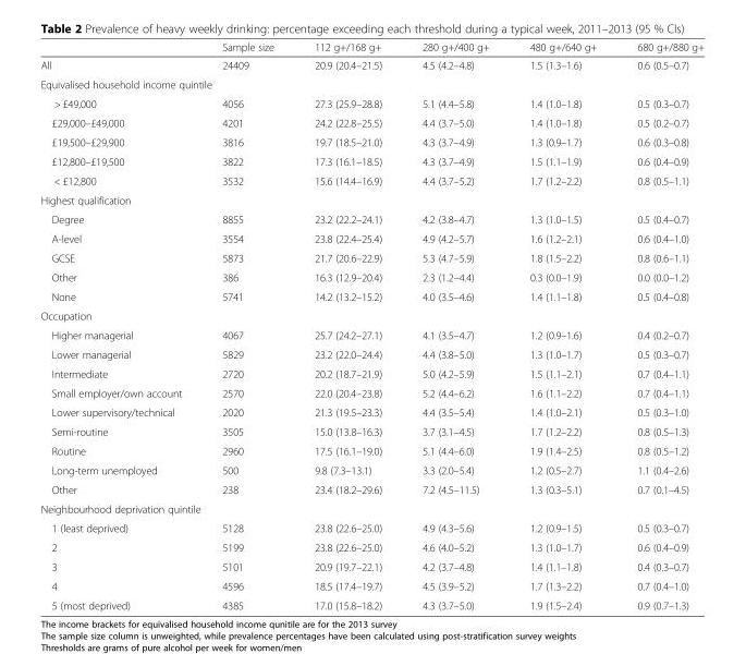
<table><thead><tr><td></td><td>Sample size</td><td>112 g+/168 g+</td><td>280 g+/400 g+</td><td>480 g+/640 g+</td><td>680 g+/880 g+</td></tr></thead><tbody><tr><td>All</td><td>24409</td><td>20.9 (20.4–21.5)</td><td>4.5 (4.2–4.8)</td><td>1.5 (1.3–1.6)</td><td>0.6 (0.5–0.7)</td></tr><tr><td colspan="6">Equivalised household income quintile</td></tr><tr><td>&gt; £49,000</td><td>4056</td><td>27.3 (25.9–28.8)</td><td>5.1 (4.4–5.8)</td><td>1.4 (1.0–1.8)</td><td>0.5 (0.3–0.7)</td></tr><tr><td>£29,000–£49,000</td><td>4201</td><td>24.2 (22.8–25.5)</td><td>4.4 (3.7–5.0)</td><td>1.4 (1.0–1.8)</td><td>0.5 (0.2–0.7)</td></tr><tr><td>£19,500–£29,900</td><td>3816</td><td>19.7 (18.5–21.0)</td><td>4.3 (3.7–4.9)</td><td>1.3 (0.9–1.7)</td><td>0.6 (0.3–0.8)</td></tr><tr><td>£12,800–£19,500</td><td>3822</td><td>17.3 (16.1–18.5)</td><td>4.3 (3.7–4.9)</td><td>1.5 (1.1–1.9)</td><td>0.6 (0.4–0.9)</td></tr><tr><td>&lt; £12,800</td><td>3532</td><td>15.6 (14.4–16.9)</td><td>4.4 (3.7–5.2)</td><td>1.7 (1.2–2.2)</td><td>0.8 (0.5–1.1)</td></tr><tr><td colspan="6">Highest qualification</td></tr><tr><td>Degree</td><td>8855</td><td>23.2 (22.2–24.1)</td><td>4.2 (3.8–4.7)</td><td>1.3 (1.0–1.5)</td><td>0.5 (0.4–0.7)</td></tr><tr><td>A-level</td><td>3554</td><td>23.8 (22.4–25.4)</td><td>4.9 (4.2–5.7)</td><td>1.6 (1.2–2.1)</td><td>0.6 (0.4–1.0)</td></tr><tr><td>GCSE</td><td>5873</td><td>21.7 (20.6–22.9)</td><td>5.3 (4.7–5.9)</td><td>1.8 (1.5–2.2)</td><td>0.8 (0.6–1.1)</td></tr><tr><td>Other</td><td>386</td><td>16.3 (12.9–20.4)</td><td>2.3 (1.2–4.4)</td><td>0.3 (0.0–1.9)</td><td>0.0 (0.0–1.2)</td></tr><tr><td>None</td><td>5741</td><td>14.2 (13.2–15.2)</td><td>4.0 (3.5–4.6)</td><td>1.4 (1.1–1.8)</td><td>0.5 (0.4–0.8)</td></tr><tr><td colspan="6">Occupation</td></tr><tr><td>Higher managerial</td><td>4067</td><td>25.7 (24.2–27.1)</td><td>4.1 (3.5–4.7)</td><td>1.2 (0.9–1.6)</td><td>0.4 (0.2–0.7)</td></tr><tr><td>Lower managerial</td><td>5829</td><td>23.2 (22.0–24.4)</td><td>4.4 (3.8–5.0)</td><td>1.3 (1.0–1.7)</td><td>0.5 (0.3–0.7)</td></tr><tr><td>Intermediate</td><td>2720</td><td>20.2 (18.7–21.9)</td><td>5.0 (4.2–5.9)</td><td>1.5 (1.1–2.1)</td><td>0.7 (0.4–1.1)</td></tr><tr><td>Small employer/own account</td><td>2570</td><td>22.0 (20.4–23.8)</td><td>5.2 (4.4–6.2)</td><td>1.6 (1.1–2.2)</td><td>0.7 (0.4–1.1)</td></tr><tr><td>Lower supervisory/technical</td><td>2020</td><td>21.3 (19.5–23.3)</td><td>4.4 (3.5–5.4)</td><td>1.4 (1.0–2.1)</td><td>0.5 (0.3–1.0)</td></tr><tr><td>Semi-routine</td><td>3505</td><td>15.0 (13.8–16.3)</td><td>3.7 (3.1–4.5)</td><td>1.7 (1.2–2.2)</td><td>0.8 (0.5–1.3)</td></tr><tr><td>Routine</td><td>2960</td><td>17.5 (16.1–19.0)</td><td>5.1 (4.4–6.0)</td><td>1.9 (1.4–2.5)</td><td>0.8 (0.5–1.2)</td></tr><tr><td>Long-term unemployed</td><td>500</td><td>9.8 (7.3–13.1)</td><td>3.3 (2.0–5.4)</td><td>1.2 (0.5–2.7)</td><td>1.1 (0.4–2.6)</td></tr><tr><td>Other</td><td>238</td><td>23.4 (18.2–29.6)</td><td>7.2 (4.5–11.5)</td><td>1.3 (0.3–5.1)</td><td>0.7 (0.1–4.5)</td></tr><tr><td colspan="6">Neighbourhood deprivation quintile</td></tr><tr><td>1 (least deprived)</td><td>5128</td><td>23.8 (22.6–25.0)</td><td>4.9 (4.3–5.6)</td><td>1.2 (0.9–1.5)</td><td>0.5 (0.3–0.7)</td></tr><tr><td>2</td><td>5199</td><td>23.8 (22.6–25.0)</td><td>4.6 (4.0–5.2)</td><td>1.3 (1.0–1.7)</td><td>0.6 (0.4–0.9)</td></tr><tr><td>3</td><td>5101</td><td>20.9 (19.7–22.1)</td><td>4.2 (3.7–4.8)</td><td>1.4 (1.1–1.8)</td><td>0.4 (0.3–0.7)</td></tr><tr><td>4</td><td>4596</td><td>18.5 (17.4–19.7)</td><td>4.5 (3.9–5.2)</td><td>1.7 (1.3–2.2)</td><td>0.7 (0.4–1.0)</td></tr><tr><td>5 (most deprived)</td><td>4385</td><td>17.0 (15.8–18.2)</td><td>4.3 (3.7–5.0)</td><td>1.9 (1.5–2.4)</td><td>0.9 (0.7–1.3)</td></tr></tbody></table>